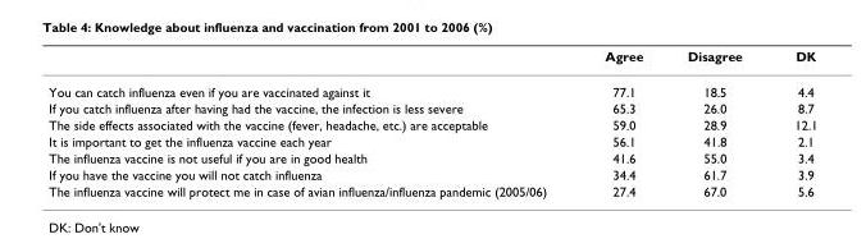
<table><thead><tr><td></td><td>Agree</td><td>Disagree</td><td>DK</td></tr></thead><tbody><tr><td>You can catch influenza even if you are vaccinated against it</td><td>77.1</td><td>18.5</td><td>4.4</td></tr><tr><td>If you catch influenza after having had the vaccine, the infection is less severe</td><td>65.3</td><td>26.0</td><td>8.7</td></tr><tr><td>The side effects associated with the vaccine (fever, headache, etc.) are acceptable</td><td>59.0</td><td>28.9</td><td>12.1</td></tr><tr><td>It is important to get the influenza vaccine each year</td><td>56.1</td><td>41.8</td><td>2.1</td></tr><tr><td>The influenza vaccine is not useful if you are in good health</td><td>41.6</td><td>55.0</td><td>3.4</td></tr><tr><td>If you have the vaccine you will not catch influenza</td><td>34.4</td><td>61.7</td><td>3.9</td></tr><tr><td>The influenza vaccine will protect me in case of avian influenza/influenza pandemic (2005/06)</td><td>27.4</td><td>67.0</td><td>5.6</td></tr></tbody></table>